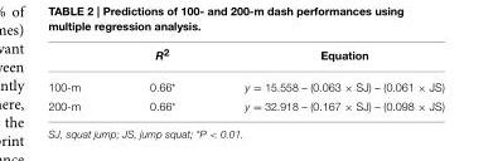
<table><thead><tr><td></td><td>R<sup>2</sup></td><td>Equation</td></tr></thead><tbody><tr><td>100-m</td><td>0.66*</td><td>y = 15.558 – (0.063 × SJ) – (0.061 × JS)</td></tr><tr><td>200-m</td><td>0.66*</td><td>y = 32.918 – (0.167 × SJ) – (0.098 × JS)</td></tr></tbody></table>